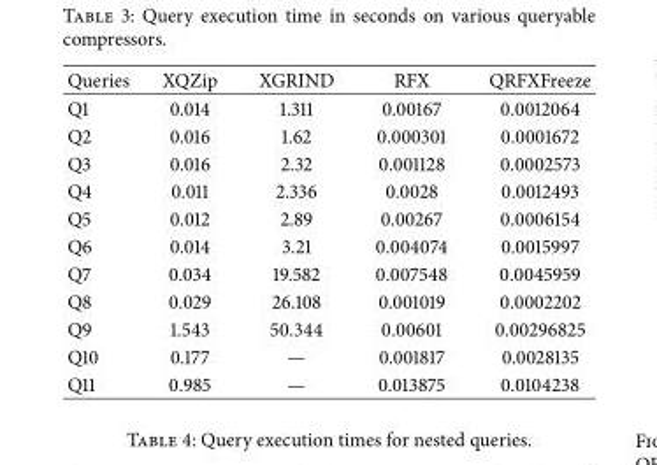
<table><thead><tr><td>Queries</td><td>XQZip</td><td>XGRIND</td><td>RFX</td><td>QRFXFreeze</td></tr></thead><tbody><tr><td>Q1</td><td>0.014</td><td>1.311</td><td>0.00167</td><td>0.0012064</td></tr><tr><td>Q2</td><td>0.016</td><td>1.62</td><td>0.000301</td><td>0.0001672</td></tr><tr><td>Q3</td><td>0.016</td><td>2.32</td><td>0.001128</td><td>0.0002573</td></tr><tr><td>Q4</td><td>0.011</td><td>2.336</td><td>0.0028</td><td>0.0012493</td></tr><tr><td>Q5</td><td>0.012</td><td>2.89</td><td>0.00267</td><td>0.0006154</td></tr><tr><td>Q6</td><td>0.014</td><td>3.21</td><td>0.004074</td><td>0.0015997</td></tr><tr><td>Q7</td><td>0.034</td><td>19.582</td><td>0.007548</td><td>0.0045959</td></tr><tr><td>Q8</td><td>0.029</td><td>26.108</td><td>0.001019</td><td>0.0002202</td></tr><tr><td>Q9</td><td>1.543</td><td>50.344</td><td>0.00601</td><td>0.00296825</td></tr><tr><td>Q10</td><td>0.177</td><td>—</td><td>0.001817</td><td>0.0028135</td></tr><tr><td>Q11</td><td>0.985</td><td>—</td><td>0.013875</td><td>0.0104238</td></tr></tbody></table>